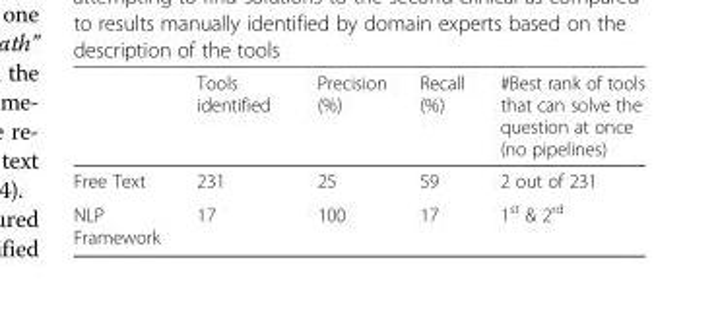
<table><thead><tr><td></td><td>Tools identified</td><td>Precision (%)</td><td>Recall (%)</td><td>#Best rank of tools that can solve the question at once (no pipelines)</td></tr></thead><tbody><tr><td>Free Text</td><td>231</td><td>25</td><td>59</td><td>2 out of 231</td></tr><tr><td>NLP Framework</td><td>17</td><td>100</td><td>17</td><td>1<sup>st</sup> &amp; 2<sup>rd</sup></td></tr></tbody></table>